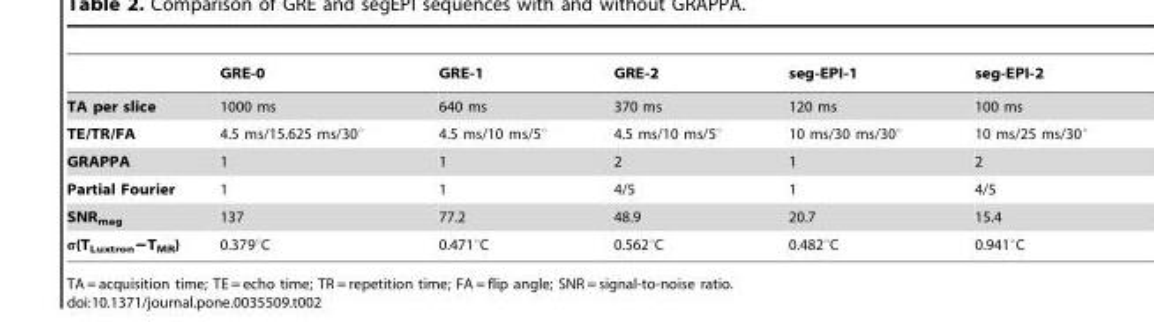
<table><thead><tr><td></td><td>GRE-0</td><td>GRE-1</td><td>GRE-2</td><td>seg-EPI-1</td><td>seg-EPI-2</td></tr></thead><tbody><tr><td>TA per slice</td><td>1000 ms</td><td>640 ms</td><td>370 ms</td><td>120 ms</td><td>100 ms</td></tr><tr><td>TE/TR/FA</td><td>4.5 ms/15.625 ms/30°</td><td>4.5 ms/10 ms/5°</td><td>4.5 ms/10 ms/5°</td><td>10 ms/30 ms/30°</td><td>10 ms/25 ms/30°</td></tr><tr><td>GRAPPA</td><td>1</td><td>1</td><td>2</td><td>1</td><td>2</td></tr><tr><td>Partial Fourier</td><td>1</td><td>1</td><td>4/5</td><td>1</td><td>4/5</td></tr><tr><td>SNR<sub>mag</sub></td><td>137</td><td>77.2</td><td>48.9</td><td>20.7</td><td>15.4</td></tr><tr><td>σ(T<sub>Luxtron</sub>−T<sub>MR</sub>)</td><td>0.379°C</td><td>0.471°C</td><td>0.562°C</td><td>0.482°C</td><td>0.941°C</td></tr></tbody></table>